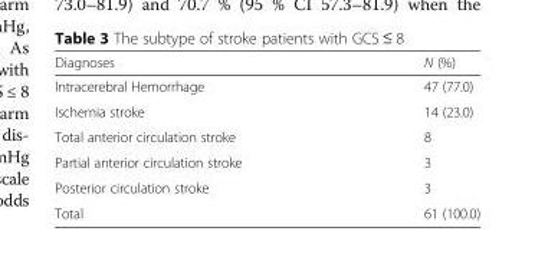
<table><thead><tr><td>Diagnoses</td><td>N (%)</td></tr></thead><tbody><tr><td>Intracerebral Hemorrhage</td><td>47 (77.0)</td></tr><tr><td>Ischemia stroke</td><td>14 (23.0)</td></tr><tr><td>Total anterior circulation stroke</td><td>8</td></tr><tr><td>Partial anterior circulation stroke</td><td>3</td></tr><tr><td>Posterior circulation stroke</td><td>3</td></tr><tr><td>Total</td><td>61 (100.0)</td></tr></tbody></table>